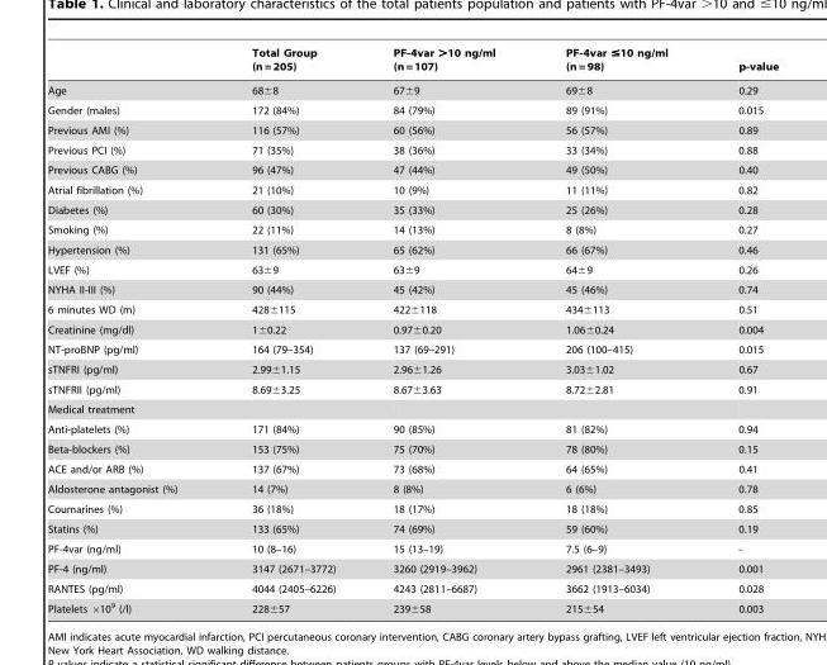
<table><thead><tr><td></td><td>Total Group (n = 205)</td><td>PF-4var &gt;10 ng/ml (n = 107)</td><td>PF-4var ≤10 ng/ml (n = 98)</td><td>p-value</td></tr></thead><tbody><tr><td>Age</td><td>68±8</td><td>67±9</td><td>69±8</td><td>0.29</td></tr><tr><td>Gender (males)</td><td>172 (84%)</td><td>84 (79%)</td><td>89 (91%)</td><td>0.015</td></tr><tr><td>Previous AMI (%)</td><td>116 (57%)</td><td>60 (56%)</td><td>56 (57%)</td><td>0.89</td></tr><tr><td>Previous PCI (%)</td><td>71 (35%)</td><td>38 (36%)</td><td>33 (34%)</td><td>0.88</td></tr><tr><td>Previous CABG (%)</td><td>96 (47%)</td><td>47 (44%)</td><td>49 (50%)</td><td>0.40</td></tr><tr><td>Atrial fibrillation (%)</td><td>21 (10%)</td><td>10 (9%)</td><td>11 (11%)</td><td>0.82</td></tr><tr><td>Diabetes (%)</td><td>60 (30%)</td><td>35 (33%)</td><td>25 (26%)</td><td>0.28</td></tr><tr><td>Smoking (%)</td><td>22 (11%)</td><td>14 (13%)</td><td>8 (8%)</td><td>0.27</td></tr><tr><td>Hypertension (%)</td><td>131 (65%)</td><td>65 (62%)</td><td>66 (67%)</td><td>0.46</td></tr><tr><td>LVEF (%)</td><td>63±9</td><td>63±9</td><td>64±9</td><td>0.26</td></tr><tr><td>NYHA II-III (%)</td><td>90 (44%)</td><td>45 (42%)</td><td>45 (46%)</td><td>0.74</td></tr><tr><td>6 minutes WD (m)</td><td>428±115</td><td>422±118</td><td>434±113</td><td>0.51</td></tr><tr><td>Creatinine (mg/dl)</td><td>1±0.22</td><td>0.97±0.20</td><td>1.06±0.24</td><td>0.004</td></tr><tr><td>NT-proBNP (pg/ml)</td><td>164 (79–354)</td><td>137 (69–291)</td><td>206 (100–415)</td><td>0.015</td></tr><tr><td>sTNFRI (pg/ml)</td><td>2.99±1.15</td><td>2.96±1.26</td><td>3.03±1.02</td><td>0.67</td></tr><tr><td>sTNFRII (pg/ml)</td><td>8.69±3.25</td><td>8.67±3.63</td><td>8.72±2.81</td><td>0.91</td></tr><tr><td colspan="5">Medical treatment</td></tr><tr><td>Anti-platelets (%)</td><td>171 (84%)</td><td>90 (85%)</td><td>81 (82%)</td><td>0.94</td></tr><tr><td>Beta-blockers (%)</td><td>153 (75%)</td><td>75 (70%)</td><td>78 (80%)</td><td>0.15</td></tr><tr><td>ACE and/or ARB (%)</td><td>137 (67%)</td><td>73 (68%)</td><td>64 (65%)</td><td>0.41</td></tr><tr><td>Aldosterone antagonist (%)</td><td>14 (7%)</td><td>8 (8%)</td><td>6 (6%)</td><td>0.78</td></tr><tr><td>Coumarines (%)</td><td>36 (18%)</td><td>18 (17%)</td><td>18 (18%)</td><td>0.85</td></tr><tr><td>Statins (%)</td><td>133 (65%)</td><td>74 (69%)</td><td>59 (60%)</td><td>0.19</td></tr><tr><td>PF-4var (ng/ml)</td><td>10 (8–16)</td><td>15 (13–19)</td><td>7.5 (6–9)</td><td>-</td></tr><tr><td>PF-4 (ng/ml)</td><td>3147 (2671–3772)</td><td>3260 (2919–3962)</td><td>2961 (2381–3493)</td><td>0.001</td></tr><tr><td>RANTES (pg/ml)</td><td>4044 (2405–6226)</td><td>4243 (2811–6687)</td><td>3662 (1913–6034)</td><td>0.028</td></tr><tr><td>Platelets ×10<sup>9</sup> (/l)</td><td>228±57</td><td>239±58</td><td>215±54</td><td>0.003</td></tr></tbody></table>